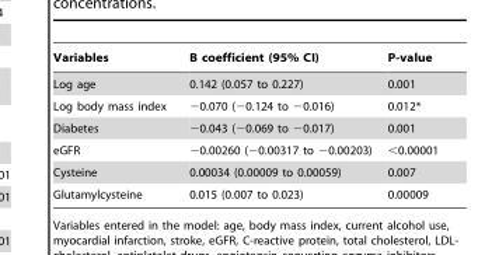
<table><thead><tr><td>Variables</td><td>B coefficient (95% CI)</td><td>P-value</td></tr></thead><tbody><tr><td>Log age</td><td>0.142 (0.057 to 0.227)</td><td>0.001</td></tr><tr><td>Log body mass index</td><td>−0.070 (−0.124 to −0.016)</td><td>0.012*</td></tr><tr><td>Diabetes</td><td>−0.043 (−0.069 to −0.017)</td><td>0.001</td></tr><tr><td>eGFR</td><td>−0.00260 (−0.00317 to −0.00203)</td><td>&lt;0.00001</td></tr><tr><td>Cysteine</td><td>0.00034 (0.00009 to 0.00059)</td><td>0.007</td></tr><tr><td>Glutamylcysteine</td><td>0.015 (0.007 to 0.023)</td><td>0.00009</td></tr></tbody></table>